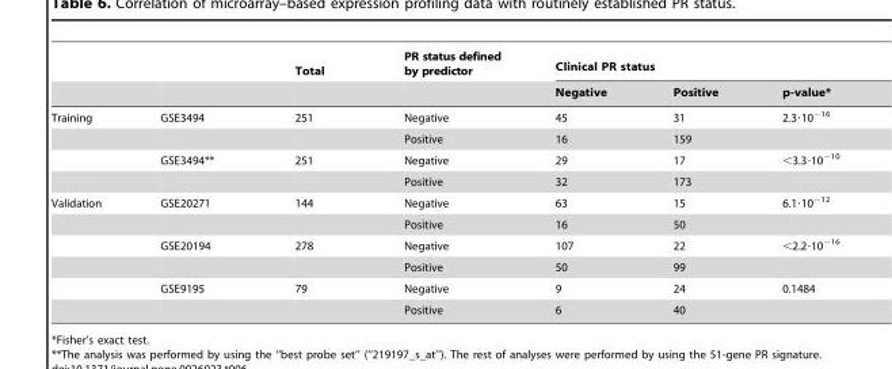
<table><thead><tr><td rowspan="2"></td><td rowspan="2"></td><td rowspan="2">Total</td><td rowspan="2">PR status defined by predictor</td><td colspan="3">Clinical PR status</td></tr><tr><td>Negative</td><td>Positive</td><td>p-value*</td></tr></thead><tbody><tr><td rowspan="4">Training</td><td>GSE3494</td><td>251</td><td>Negative</td><td>45</td><td>31</td><td>2.3·10<sup>−16</sup></td></tr><tr><td></td><td></td><td>Positive</td><td>16</td><td>159</td><td></td></tr><tr><td>GSE3494**</td><td>251</td><td>Negative</td><td>29</td><td>17</td><td>&lt;3.3·10<sup>−10</sup></td></tr><tr><td></td><td></td><td>Positive</td><td>32</td><td>173</td><td></td></tr><tr><td rowspan="6">Validation</td><td>GSE20271</td><td>144</td><td>Negative</td><td>63</td><td>15</td><td>6.1·10<sup>−12</sup></td></tr><tr><td></td><td></td><td>Positive</td><td>16</td><td>50</td><td></td></tr><tr><td>GSE20194</td><td>278</td><td>Negative</td><td>107</td><td>22</td><td>&lt;2.2·10<sup>−16</sup></td></tr><tr><td></td><td></td><td>Positive</td><td>50</td><td>99</td><td></td></tr><tr><td>GSE9195</td><td>79</td><td>Negative</td><td>9</td><td>24</td><td>0.1484</td></tr><tr><td></td><td></td><td>Positive</td><td>6</td><td>40</td><td></td></tr></tbody></table>